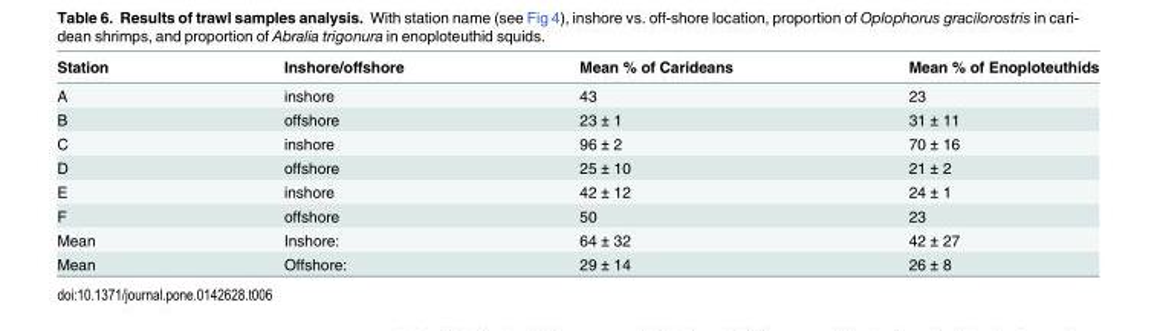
<table><thead><tr><td>Station</td><td>Inshore/offshore</td><td>Mean % of Carideans</td><td>Mean % of Enoploteuthids</td></tr></thead><tbody><tr><td>A</td><td>inshore</td><td>43</td><td>23</td></tr><tr><td>B</td><td>offshore</td><td>23 ± 1</td><td>31 ± 11</td></tr><tr><td>C</td><td>inshore</td><td>96 ± 2</td><td>70 ± 16</td></tr><tr><td>D</td><td>offshore</td><td>25 ± 10</td><td>21 ± 2</td></tr><tr><td>E</td><td>inshore</td><td>42 ± 12</td><td>24 ± 1</td></tr><tr><td>F</td><td>offshore</td><td>50</td><td>23</td></tr><tr><td>Mean</td><td>Inshore:</td><td>64 ± 32</td><td>42 ± 27</td></tr><tr><td>Mean</td><td>Offshore:</td><td>29 ± 14</td><td>26 ± 8</td></tr></tbody></table>